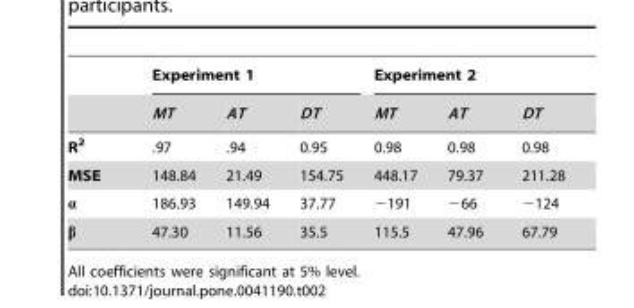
<table><thead><tr><td rowspan="2"></td><td colspan="3">Experiment 1</td><td colspan="3">Experiment 2</td></tr><tr><td>MT</td><td>AT</td><td>DT</td><td>MT</td><td>AT</td><td>DT</td></tr></thead><tbody><tr><td>R<sup>2</sup></td><td>.97</td><td>.94</td><td>0.95</td><td>0.98</td><td>0.98</td><td>0.98</td></tr><tr><td>MSE</td><td>148.84</td><td>21.49</td><td>154.75</td><td>448.17</td><td>79.37</td><td>211.28</td></tr><tr><td>α</td><td>186.93</td><td>149.94</td><td>37.77</td><td>−191</td><td>−66</td><td>−124</td></tr><tr><td>β</td><td>47.30</td><td>11.56</td><td>35.5</td><td>115.5</td><td>47.96</td><td>67.79</td></tr></tbody></table>